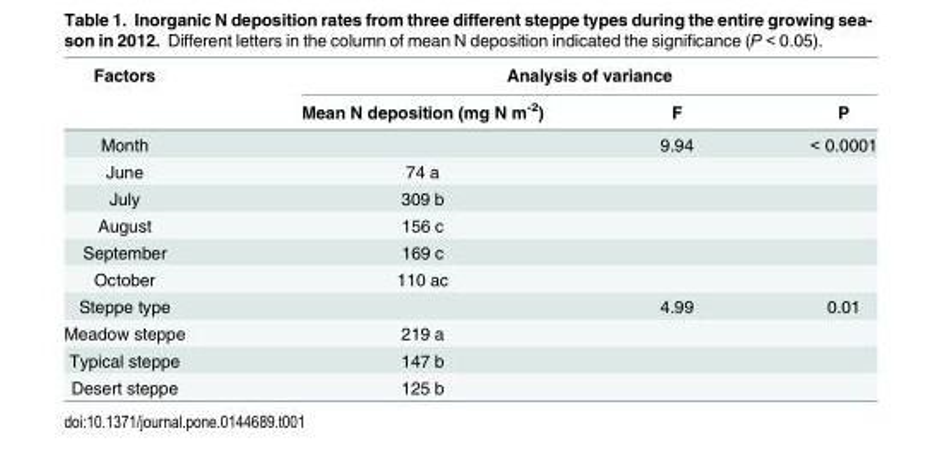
<table><thead><tr><td rowspan="2">Factors</td><td colspan="3">Analysis of variance</td></tr><tr><td>Mean N deposition (mg N m<sup>-2</sup>)</td><td>F</td><td>P</td></tr></thead><tbody><tr><td>Month</td><td></td><td>9.94</td><td>&lt; 0.0001</td></tr><tr><td>June</td><td>74 a</td><td></td><td></td></tr><tr><td>July</td><td>309 b</td><td></td><td></td></tr><tr><td>August</td><td>156 c</td><td></td><td></td></tr><tr><td>September</td><td>169 c</td><td></td><td></td></tr><tr><td>October</td><td>110 ac</td><td></td><td></td></tr><tr><td>Steppe type</td><td></td><td>4.99</td><td>0.01</td></tr><tr><td>Meadow steppe</td><td>219 a</td><td></td><td></td></tr><tr><td>Typical steppe</td><td>147 b</td><td></td><td></td></tr><tr><td>Desert steppe</td><td>125 b</td><td></td><td></td></tr></tbody></table>